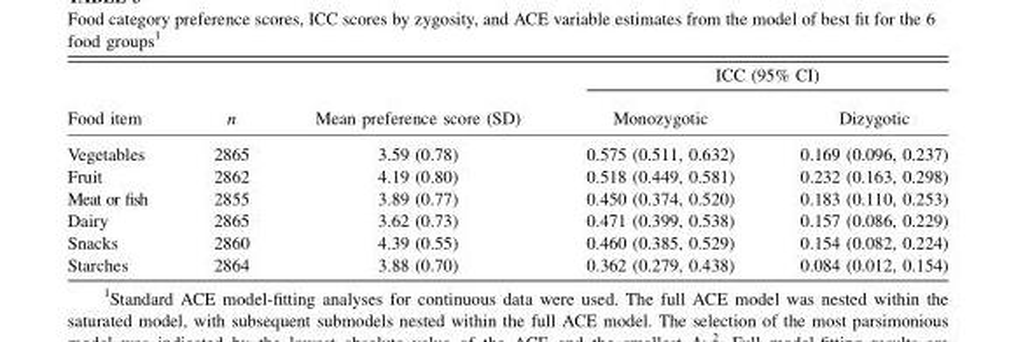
<table><thead><tr><td rowspan="2">Food item</td><td rowspan="2">n</td><td rowspan="2">Mean preference score (SD)</td><td colspan="2">ICC (95% CI)</td></tr><tr><td>Monozygotic</td><td>Dizygotic</td></tr></thead><tbody><tr><td>Vegetables</td><td>2865</td><td>3.59 (0.78)</td><td>0.575 (0.511, 0.632)</td><td>0.169 (0.096, 0.237)</td></tr><tr><td>Fruit</td><td>2862</td><td>4.19 (0.80)</td><td>0.518 (0.449, 0.581)</td><td>0.232 (0.163, 0.298)</td></tr><tr><td>Meat or fish</td><td>2855</td><td>3.89 (0.77)</td><td>0.450 (0.374, 0.520)</td><td>0.183 (0.110, 0.253)</td></tr><tr><td>Dairy</td><td>2865</td><td>3.62 (0.73)</td><td>0.471 (0.399, 0.538)</td><td>0.157 (0.086, 0.229)</td></tr><tr><td>Snacks</td><td>2860</td><td>4.39 (0.55)</td><td>0.460 (0.385, 0.529)</td><td>0.154 (0.082, 0.224)</td></tr><tr><td>Starches</td><td>2864</td><td>3.88 (0.70)</td><td>0.362 (0.279, 0.438)</td><td>0.084 (0.012, 0.154)</td></tr></tbody></table>